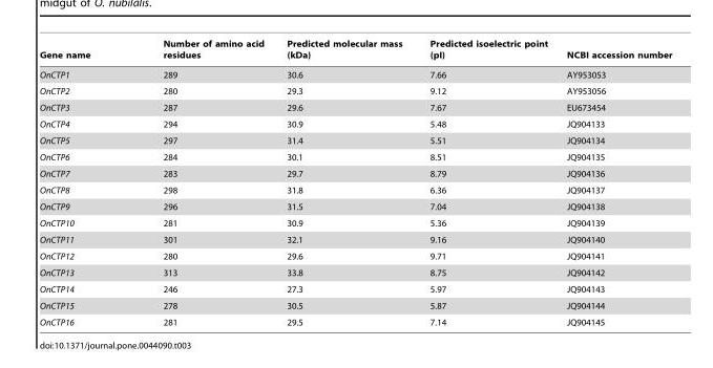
<table><thead><tr><td>Gene name</td><td>Number of amino acid residues</td><td>Predicted molecular mass (kDa)</td><td>Predicted isoelectric point (pI)</td><td>NCBI accession number</td></tr></thead><tbody><tr><td>OnCTP1</td><td>289</td><td>30.6</td><td>7.66</td><td>AY953053</td></tr><tr><td>OnCTP2</td><td>280</td><td>29.3</td><td>9.12</td><td>AY953056</td></tr><tr><td>OnCTP3</td><td>287</td><td>29.6</td><td>7.67</td><td>EU673454</td></tr><tr><td>OnCTP4</td><td>294</td><td>30.9</td><td>5.48</td><td>JQ904133</td></tr><tr><td>OnCTP5</td><td>297</td><td>31.4</td><td>5.51</td><td>JQ904134</td></tr><tr><td>OnCTP6</td><td>284</td><td>30.1</td><td>8.51</td><td>JQ904135</td></tr><tr><td>OnCTP7</td><td>283</td><td>29.7</td><td>8.79</td><td>JQ904136</td></tr><tr><td>OnCTP8</td><td>298</td><td>31.8</td><td>6.36</td><td>JQ904137</td></tr><tr><td>OnCTP9</td><td>296</td><td>31.5</td><td>7.04</td><td>JQ904138</td></tr><tr><td>OnCTP10</td><td>281</td><td>30.9</td><td>5.36</td><td>JQ904139</td></tr><tr><td>OnCTP11</td><td>301</td><td>32.1</td><td>9.16</td><td>JQ904140</td></tr><tr><td>OnCTP12</td><td>280</td><td>29.6</td><td>9.71</td><td>JQ904141</td></tr><tr><td>OnCTP13</td><td>313</td><td>33.8</td><td>8.75</td><td>JQ904142</td></tr><tr><td>OnCTP14</td><td>246</td><td>27.3</td><td>5.97</td><td>JQ904143</td></tr><tr><td>OnCTP15</td><td>278</td><td>30.5</td><td>5.87</td><td>JQ904144</td></tr><tr><td>OnCTP16</td><td>281</td><td>29.5</td><td>7.14</td><td>JQ904145</td></tr></tbody></table>